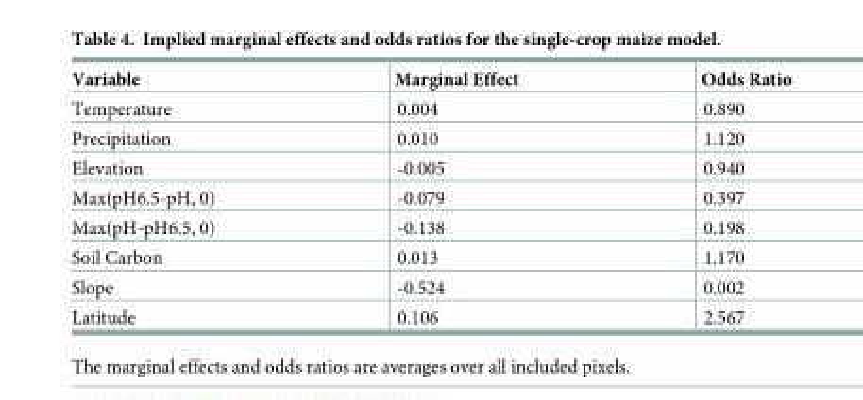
<table><thead><tr><td>Variable</td><td>Marginal Effect</td><td>Odds Ratio</td></tr></thead><tbody><tr><td>Temperature</td><td>0.004</td><td>0.890</td></tr><tr><td>Precipitation</td><td>0.010</td><td>1.120</td></tr><tr><td>Elevation</td><td>-0.005</td><td>0.940</td></tr><tr><td>Max(pH6.5-pH, 0)</td><td>-0.079</td><td>0.397</td></tr><tr><td>Max(pH-pH6.5, 0)</td><td>-0.138</td><td>0.198</td></tr><tr><td>Soil Carbon</td><td>0.013</td><td>1.170</td></tr><tr><td>Slope</td><td>-0.524</td><td>0.002</td></tr><tr><td>Latitude</td><td>0.106</td><td>2.567</td></tr></tbody></table>